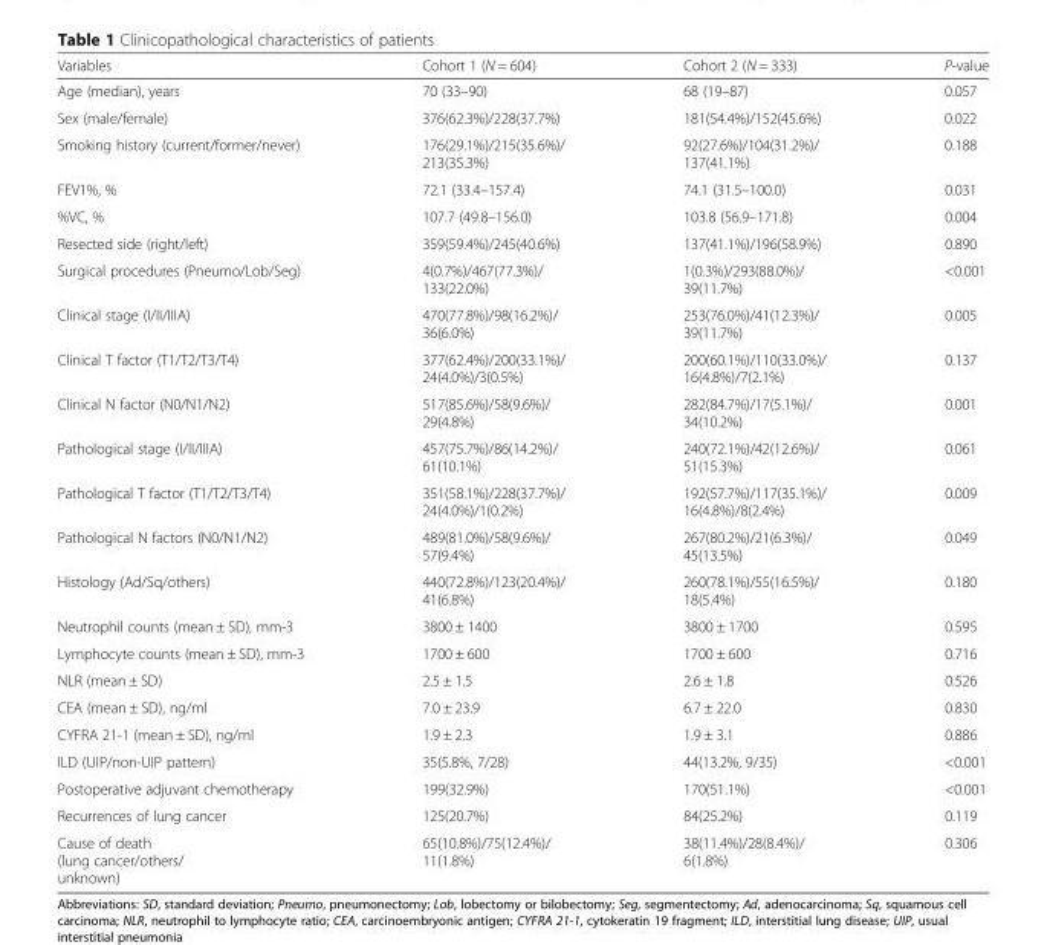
<table><thead><tr><td>Variables</td><td>Cohort 1 (N = 604)</td><td>Cohort 2 (N = 333)</td><td>P-value</td></tr></thead><tbody><tr><td>Age (median), years</td><td>70 (33–90)</td><td>68 (19–87)</td><td>0.057</td></tr><tr><td>Sex (male/female)</td><td>376(62.3%)/228(37.7%)</td><td>181(54.4%)/152(45.6%)</td><td>0.022</td></tr><tr><td>Smoking history (current/former/never)</td><td>176(29.1%)/215(35.6%)/ 213(35.3%)</td><td>92(27.6%)/104(31.2%)/ 137(41.1%)</td><td>0.188</td></tr><tr><td>FEV1%, %</td><td>72.1 (33.4–157.4)</td><td>74.1 (31.5–100.0)</td><td>0.031</td></tr><tr><td>%VC, %</td><td>107.7 (49.8–156.0)</td><td>103.8 (56.9–171.8)</td><td>0.004</td></tr><tr><td>Resected side (right/left)</td><td>359(59.4%)/245(40.6%)</td><td>137(41.1%)/196(58.9%)</td><td>0.890</td></tr><tr><td>Surgical procedures (Pneumo/Lob/Seg)</td><td>4(0.7%)/467(77.3%)/ 133(22.0%)</td><td>1(0.3%)/293(88.0%)/ 39(11.7%)</td><td>&lt;0.001</td></tr><tr><td>Clinical stage (I/II/IIIA)</td><td>470(77.8%)/98(16.2%)/ 36(6.0%)</td><td>253(76.0%)/41(12.3%)/ 39(11.7%)</td><td>0.005</td></tr><tr><td>Clinical T factor (T1/T2/T3/T4)</td><td>377(62.4%)/200(33.1%)/ 24(4.0%)/3(0.5%)</td><td>200(60.1%)/110(33.0%)/ 16(4.8%)/7(2.1%)</td><td>0.137</td></tr><tr><td>Clinical N factor (N0/N1/N2)</td><td>517(85.6%)/58(9.6%)/ 29(4.8%)</td><td>282(84.7%)/17(5.1%)/ 34(10.2%)</td><td>0.001</td></tr><tr><td>Pathological stage (I/II/IIIA)</td><td>457(75.7%)/86(14.2%)/ 61(10.1%)</td><td>240(72.1%)/42(12.6%)/ 51(15.3%)</td><td>0.061</td></tr><tr><td>Pathological T factor (T1/T2/T3/T4)</td><td>351(58.1%)/228(37.7%)/ 24(4.0%)/1(0.2%)</td><td>192(57.7%)/117(35.1%)/ 16(4.8%)/8(2.4%)</td><td>0.009</td></tr><tr><td>Pathological N factors (N0/N1/N2)</td><td>489(81.0%)/58(9.6%)/ 57(9.4%)</td><td>267(80.2%)/21(6.3%)/ 45(13.5%)</td><td>0.049</td></tr><tr><td>Histology (Ad/Sq/others)</td><td>440(72.8%)/123(20.4%)/ 41(6.8%)</td><td>260(78.1%)/55(16.5%)/ 18(5.4%)</td><td>0.180</td></tr><tr><td>Neutrophil counts (mean ± SD), mm-3</td><td>3800 ± 1400</td><td>3800 ± 1700</td><td>0.595</td></tr><tr><td>Lymphocyte counts (mean ± SD), mm-3</td><td>1700 ± 600</td><td>1700 ± 600</td><td>0.716</td></tr><tr><td>NLR (mean ± SD)</td><td>2.5 ± 1.5</td><td>2.6 ± 1.8</td><td>0.526</td></tr><tr><td>CEA (mean ± SD), ng/ml</td><td>7.0 ± 23.9</td><td>6.7 ± 22.0</td><td>0.830</td></tr><tr><td>CYFRA 21-1 (mean ± SD), ng/ml</td><td>1.9 ± 2.3</td><td>1.9 ± 3.1</td><td>0.886</td></tr><tr><td>ILD (UIP/non-UIP pattern)</td><td>35(5.8%, 7/28)</td><td>44(13.2%, 9/35)</td><td>&lt;0.001</td></tr><tr><td>Postoperative adjuvant chemotherapy</td><td>199(32.9%)</td><td>170(51.1%)</td><td>&lt;0.001</td></tr><tr><td>Recurrences of lung cancer</td><td>125(20.7%)</td><td>84(25.2%)</td><td>0.119</td></tr><tr><td>Cause of death (lung cancer/others/ unknown)</td><td>65(10.8%)/75(12.4%)/ 11(1.8%)</td><td>38(11.4%)/28(8.4%)/ 6(1.8%)</td><td>0.306</td></tr></tbody></table>